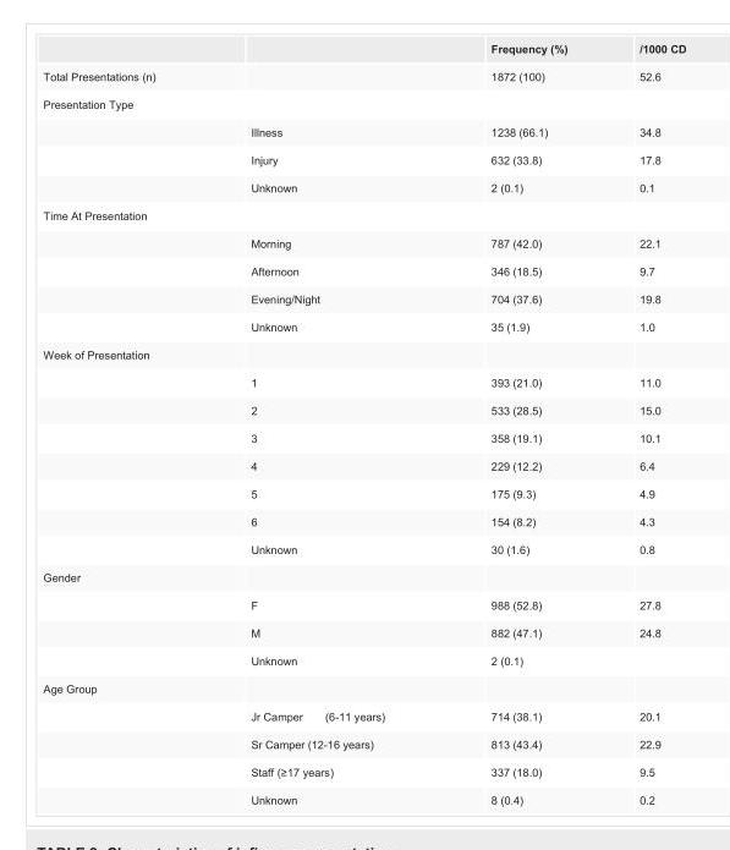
<table><thead><tr><td></td><td></td><td>Frequency (%)</td><td>/1000 CD</td></tr></thead><tbody><tr><td>Total Presentations (n)</td><td></td><td>1872 (100)</td><td>52.6</td></tr><tr><td colspan="4">Presentation Type</td></tr><tr><td></td><td>Illness</td><td>1238 (66.1)</td><td>34.8</td></tr><tr><td></td><td>Injury</td><td>632 (33.8)</td><td>17.8</td></tr><tr><td></td><td>Unknown</td><td>2 (0.1)</td><td>0.1</td></tr><tr><td colspan="4">Time At Presentation</td></tr><tr><td></td><td>Morning</td><td>787 (42.0)</td><td>22.1</td></tr><tr><td></td><td>Afternoon</td><td>346 (18.5)</td><td>9.7</td></tr><tr><td></td><td>Evening/Night</td><td>704 (37.6)</td><td>19.8</td></tr><tr><td></td><td>Unknown</td><td>35 (1.9)</td><td>1.0</td></tr><tr><td colspan="4">Week of Presentation</td></tr><tr><td></td><td>1</td><td>393 (21.0)</td><td>11.0</td></tr><tr><td></td><td>2</td><td>533 (28.5)</td><td>15.0</td></tr><tr><td></td><td>3</td><td>358 (19.1)</td><td>10.1</td></tr><tr><td></td><td>4</td><td>229 (12.2)</td><td>6.4</td></tr><tr><td></td><td>5</td><td>175 (9.3)</td><td>4.9</td></tr><tr><td></td><td>6</td><td>154 (8.2)</td><td>4.3</td></tr><tr><td></td><td>Unknown</td><td>30 (1.6)</td><td>0.8</td></tr><tr><td colspan="4">Gender</td></tr><tr><td></td><td>F</td><td>988 (52.8)</td><td>27.8</td></tr><tr><td></td><td>M</td><td>882 (47.1)</td><td>24.8</td></tr><tr><td></td><td>Unknown</td><td>2 (0.1)</td><td></td></tr><tr><td colspan="4">Age Group</td></tr><tr><td></td><td>Jr Camper (6-11 years)</td><td>714 (38.1)</td><td>20.1</td></tr><tr><td></td><td>Sr Camper (12-16 years)</td><td>813 (43.4)</td><td>22.9</td></tr><tr><td></td><td>Staff (≥17 years)</td><td>337 (18.0)</td><td>9.5</td></tr><tr><td></td><td>Unknown</td><td>8 (0.4)</td><td>0.2</td></tr></tbody></table>